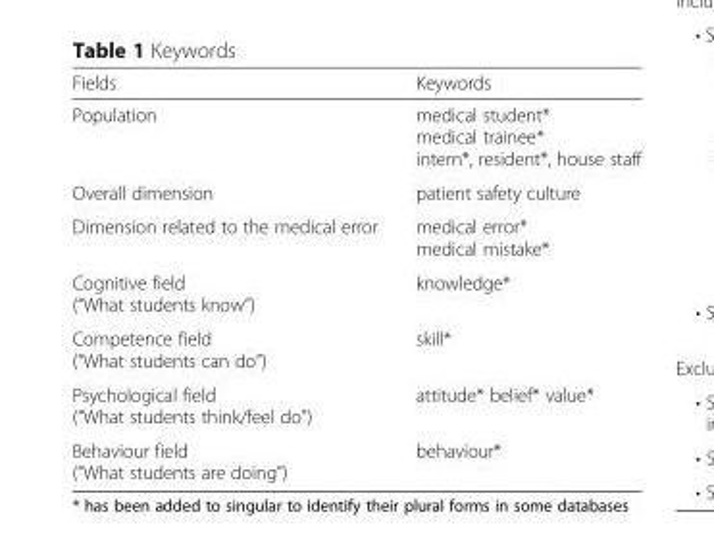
<table><thead><tr><td>Fields</td><td>Keywords</td></tr></thead><tbody><tr><td>Population</td><td>medical student* medical trainee* intern*, resident*, house staff</td></tr><tr><td>Overall dimension</td><td>patient safety culture</td></tr><tr><td>Dimension related to the medical error</td><td>medical error* medical mistake*</td></tr><tr><td>Cognitive field (“What students know”)</td><td>knowledge*</td></tr><tr><td>Competence field (“What students can do”)</td><td>skill*</td></tr><tr><td>Psychological field (“What students think/feel do”)</td><td>attitude* belief* value*</td></tr><tr><td>Behaviour field (“What students are doing”)</td><td>behaviour*</td></tr></tbody></table>